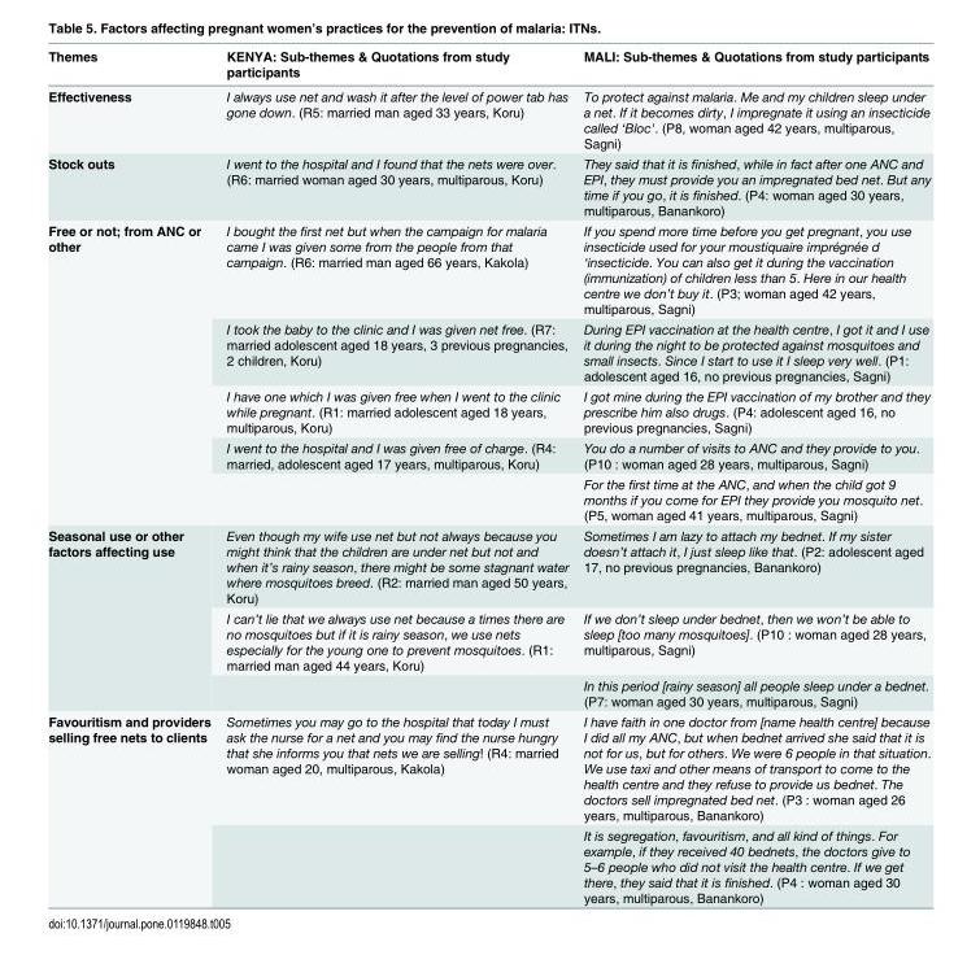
<table><thead><tr><td>Themes</td><td>KENYA: Sub-themes &amp; Quotations from study participants</td><td>MALI: Sub-themes &amp; Quotations from study participants</td></tr></thead><tbody><tr><td>Effectiveness</td><td>I always use net and wash it after the level of power tab has gone down. (R5: married man aged 33 years, Koru)</td><td>To protect against malaria. Me and my children sleep under a net. If it becomes dirty, I impregnate it using an insecticide called ‘Bloc&#x27;. (P8, woman aged 42 years, multiparous, Sagni)</td></tr><tr><td>Stock outs</td><td>I went to the hospital and I found that the nets were over. (R6: married woman aged 30 years, multiparous, Koru)</td><td>They said that it is finished, while in fact after one ANC and EPI, they must provide you an impregnated bed net. But any time if you go, it is finished. (P4: woman aged 30 years, multiparous, Banankoro)</td></tr><tr><td rowspan="5">Free or not; from ANC or other</td><td>I bought the first net but when the campaign for malaria came I was given some from the people from that campaign. (R6: married man aged 66 years, Kakola)</td><td>If you spend more time before you get pregnant, you use insecticide used for your moustiquaire imprégnée d ‘insecticide. You can also get it during the vaccination (immunization) of children less than 5. Here in our health centre we don’t buy it. (P3; woman aged 42 years, multiparous, Sagni)</td></tr><tr><td>I took the baby to the clinic and I was given net free. (R7: married adolescent aged 18 years, 3 previous pregnancies, 2 children, Koru)</td><td>During EPI vaccination at the health centre, I got it and I use it during the night to be protected against mosquitoes and small insects. Since I start to use it I sleep very well. (P1: adolescent aged 16, no previous pregnancies, Sagni)</td></tr><tr><td>I have one which I was given free when I went to the clinic while pregnant. (R1: married adolescent aged 18 years, multiparous, Koru)</td><td>I got mine during the EPI vaccination of my brother and they prescribe him also drugs. (P4: adolescent aged 16, no previous pregnancies, Sagni)</td></tr><tr><td>I went to the hospital and I was given free of charge. (R4: married, adolescent aged 17 years, multiparous, Koru)</td><td>You do a number of visits to ANC and they provide to you. (P10 : woman aged 28 years, multiparous, Sagni)</td></tr><tr><td></td><td>For the first time at the ANC, and when the child got 9 months if you come for EPI they provide you mosquito net. (P5, woman aged 41 years, multiparous, Sagni)</td></tr><tr><td rowspan="3">Seasonal use or other factors affecting use</td><td>Even though my wife use net but not always because you might think that the children are under net but not and when it’s rainy season, there might be some stagnant water where mosquitoes breed. (R2: married man aged 50 years, Koru)</td><td>Sometimes I am lazy to attach my bednet. If my sister doesn’t attach it, I just sleep like that. (P2: adolescent aged 17, no previous pregnancies, Banankoro)</td></tr><tr><td>I can’t lie that we always use net because a times there are no mosquitoes but if it is rainy season, we use nets especially for the young one to prevent mosquitoes. (R1: married man aged 44 years, Koru)</td><td>If we don’t sleep under bednet, then we won’t be able to sleep [too many mosquitoes]. (P10 : woman aged 28 years, multiparous, Sagni)</td></tr><tr><td></td><td>In this period [rainy season] all people sleep under a bednet. (P7: woman aged 30 years, multiparous, Sagni)</td></tr><tr><td rowspan="2">Favouritism and providers selling free nets to clients</td><td>Sometimes you may go to the hospital that today I must ask the nurse for a net and you may find the nurse hungry that she informs you that nets we are selling! (R4: married woman aged 20, multiparous, Kakola)</td><td>I have faith in one doctor from [name health centre] because I did all my ANC, but when bednet arrived she said that it is not for us, but for others. We were 6 people in that situation. We use taxi and other means of transport to come to the health centre and they refuse to provide us bednet. The doctors sell impregnated bed net. (P3 : woman aged 26 years, multiparous, Banankoro)</td></tr><tr><td></td><td>It is segregation, favouritism, and all kind of things. For example, if they received 40 bednets, the doctors give to 5–6 people who did not visit the health centre. If we get there, they said that it is finished. (P4 : woman aged 30 years, multiparous, Banankoro)</td></tr></tbody></table>